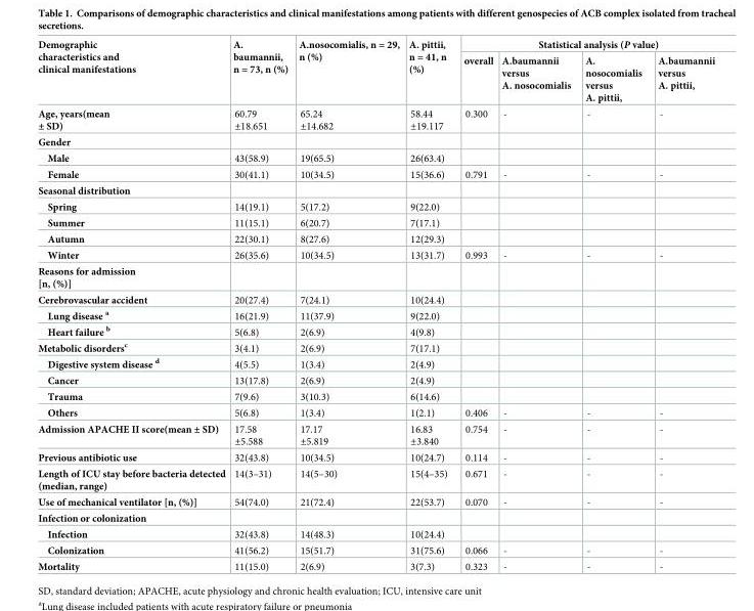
<table><thead><tr><td rowspan="2">Demographic characteristics and clinical manifestations</td><td rowspan="2">A. baumannii, n = 73, n (%)</td><td rowspan="2">A.nosocomialis, n = 29, n (%)</td><td rowspan="2">A. pittii, n = 41, n (%)</td><td colspan="4">Statistical analysis (P value)</td></tr><tr><td>overall</td><td>A.baumannii versus A. nosocomialis</td><td>A. nosocomialis versus A. pittii,</td><td>A.baumannii versus A. pittii,</td></tr></thead><tbody><tr><td>Age, years(mean ± SD)</td><td>60.79 ±18.651</td><td>65.24 ±14.682</td><td>58.44 ±19.117</td><td>0.300</td><td>-</td><td>-</td><td>-</td></tr><tr><td colspan="8">Gender</td></tr><tr><td>Male</td><td>43(58.9)</td><td>19(65.5)</td><td>26(63.4)</td><td></td><td></td><td></td><td></td></tr><tr><td>Female</td><td>30(41.1)</td><td>10(34.5)</td><td>15(36.6)</td><td>0.791</td><td>-</td><td>-</td><td>-</td></tr><tr><td colspan="8">Seasonal distribution</td></tr><tr><td>Spring</td><td>14(19.1)</td><td>5(17.2)</td><td>9(22.0)</td><td></td><td></td><td></td><td></td></tr><tr><td>Summer</td><td>11(15.1)</td><td>6(20.7)</td><td>7(17.1)</td><td></td><td></td><td></td><td></td></tr><tr><td>Autumn</td><td>22(30.1)</td><td>8(27.6)</td><td>12(29.3)</td><td></td><td></td><td></td><td></td></tr><tr><td>Winter</td><td>26(35.6)</td><td>10(34.5)</td><td>13(31.7)</td><td>0.993</td><td>-</td><td>-</td><td>-</td></tr><tr><td colspan="8">Reasons for admission [n, (%)]</td></tr><tr><td>Cerebrovascular accident</td><td>20(27.4)</td><td>7(24.1)</td><td>10(24.4)</td><td></td><td></td><td></td><td></td></tr><tr><td>Lung disease <sup>a</sup></td><td>16(21.9)</td><td>11(37.9)</td><td>9(22.0)</td><td></td><td></td><td></td><td></td></tr><tr><td>Heart failure <sup>b</sup></td><td>5(6.8)</td><td>2(6.9)</td><td>4(9.8)</td><td></td><td></td><td></td><td></td></tr><tr><td>Metabolic disorders<sup>c</sup></td><td>3(4.1)</td><td>2(6.9)</td><td>7(17.1)</td><td></td><td></td><td></td><td></td></tr><tr><td>Digestive system disease <sup>d</sup></td><td>4(5.5)</td><td>1(3.4)</td><td>2(4.9)</td><td></td><td></td><td></td><td></td></tr><tr><td>Cancer</td><td>13(17.8)</td><td>2(6.9)</td><td>2(4.9)</td><td></td><td></td><td></td><td></td></tr><tr><td>Trauma</td><td>7(9.6)</td><td>3(10.3)</td><td>6(14.6)</td><td></td><td></td><td></td><td></td></tr><tr><td>Others</td><td>5(6.8)</td><td>1(3.4)</td><td>1(2.1)</td><td>0.406</td><td>-</td><td>-</td><td>-</td></tr><tr><td>Admission APACHE II score(mean ± SD)</td><td>17.58 ±5.588</td><td>17.17 ±5.819</td><td>16.83 ±3.840</td><td>0.754</td><td>-</td><td>-</td><td>-</td></tr><tr><td>Previous antibiotic use</td><td>32(43.8)</td><td>10(34.5)</td><td>10(24.7)</td><td>0.114</td><td>-</td><td>-</td><td>-</td></tr><tr><td>Length of ICU stay before bacteria detected (median, range)</td><td>14(3–31)</td><td>14(5–30)</td><td>15(4–35)</td><td>0.671</td><td>-</td><td>-</td><td>-</td></tr><tr><td>Use of mechanical ventilator [n, (%)]</td><td>54(74.0)</td><td>21(72.4)</td><td>22(53.7)</td><td>0.070</td><td>-</td><td>-</td><td>-</td></tr><tr><td colspan="8">Infection or colonization</td></tr><tr><td>Infection</td><td>32(43.8)</td><td>14(48.3)</td><td>10(24.4)</td><td></td><td></td><td></td><td></td></tr><tr><td>Colonization</td><td>41(56.2)</td><td>15(51.7)</td><td>31(75.6)</td><td>0.066</td><td>-</td><td>-</td><td>-</td></tr><tr><td>Mortality</td><td>11(15.0)</td><td>2(6.9)</td><td>3(7.3)</td><td>0.323</td><td>-</td><td>-</td><td>-</td></tr></tbody></table>